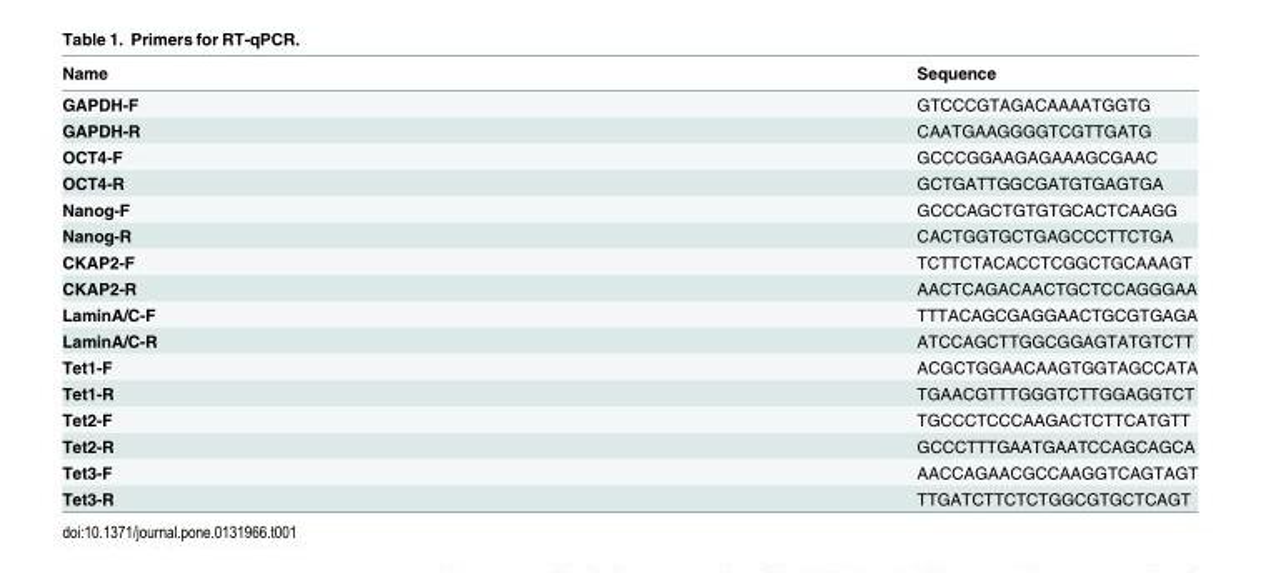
<table><thead><tr><td>Name</td><td>Sequence</td></tr></thead><tbody><tr><td>GAPDH-F</td><td>GTCCCGTAGACAAAATGGTG</td></tr><tr><td>GAPDH-R</td><td>CAATGAAGGGGTCGTTGATG</td></tr><tr><td>OCT4-F</td><td>GCCCGGAAGAGAAAGCGAAC</td></tr><tr><td>OCT4-R</td><td>GCTGATTGGCGATGTGAGTGA</td></tr><tr><td>Nanog-F</td><td>GCCCAGCTGTGTGCACTCAAGG</td></tr><tr><td>Nanog-R</td><td>CACTGGTGCTGAGCCCTTCTGA</td></tr><tr><td>CKAP2-F</td><td>TCTTCTACACCTCGGCTGCAAAGT</td></tr><tr><td>CKAP2-R</td><td>AACTCAGACAACTGCTCCAGGGAA</td></tr><tr><td>LaminA/C-F</td><td>TTTACAGCGAGGAACTGCGTGAGA</td></tr><tr><td>LaminA/C-R</td><td>ATCCAGCTTGGCGGAGTATGTCTT</td></tr><tr><td>Tet1-F</td><td>ACGCTGGAACAAGTGGTAGCCATA</td></tr><tr><td>Tet1-R</td><td>TGAACGTTTGGGTCTTGGAGGTCT</td></tr><tr><td>Tet2-F</td><td>TGCCCTCCCAAGACTCTTCATGTT</td></tr><tr><td>Tet2-R</td><td>GCCCTTTGAATGAATCCAGCAGCA</td></tr><tr><td>Tet3-F</td><td>AACCAGAACGCCAAGGTCAGTAGT</td></tr><tr><td>Tet3-R</td><td>TTGATCTTCTCTGGCGTGCTCAGT</td></tr></tbody></table>